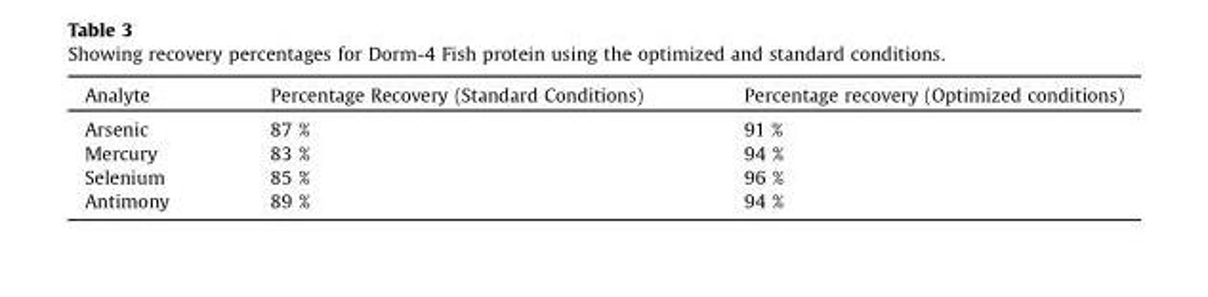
<table><thead><tr><td>Analyte</td><td>Percentage Recovery (Standard Conditions)</td><td>Percentage recovery (Optimized conditions)</td></tr></thead><tbody><tr><td>Arsenic</td><td>87 %</td><td>91 %</td></tr><tr><td>Mercury</td><td>83 %</td><td>94 %</td></tr><tr><td>Selenium</td><td>85 %</td><td>96 %</td></tr><tr><td>Antimony</td><td>89 %</td><td>94 %</td></tr></tbody></table>